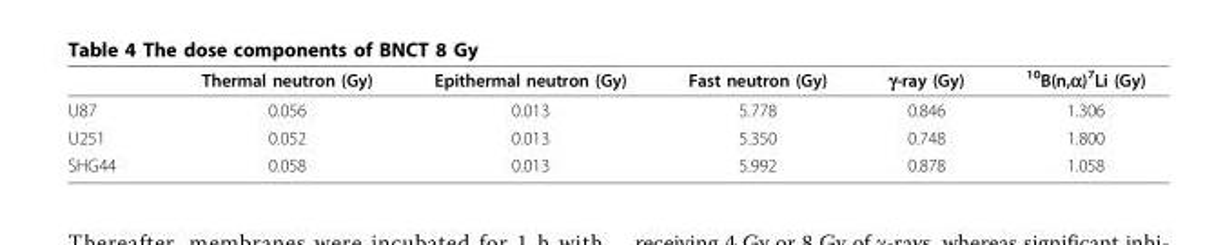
<table><thead><tr><td></td><td>Thermal neutron (Gy)</td><td>Epithermal neutron (Gy)</td><td>Fast neutron (Gy)</td><td>γ-ray (Gy)</td><td>10B(n,a)7Li (Gy)</td></tr></thead><tbody><tr><td>U87</td><td>0.056</td><td>0.013</td><td>5.778</td><td>0.846</td><td>1.306</td></tr><tr><td>U251</td><td>0.052</td><td>0.013</td><td>5.350</td><td>0.748</td><td>1.800</td></tr><tr><td>SHG44</td><td>0.058</td><td>0.013</td><td>5.992</td><td>0.878</td><td>1.058</td></tr></tbody></table>